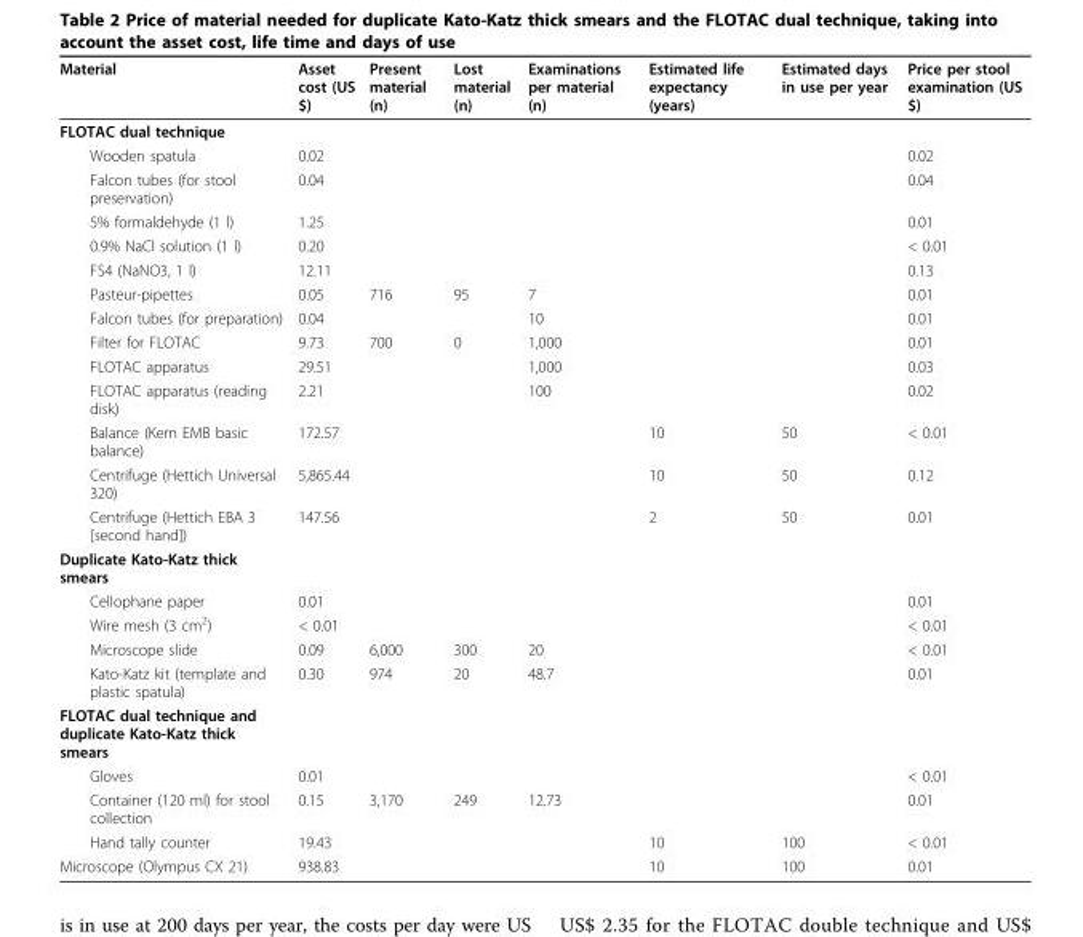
<table><thead><tr><td>Material</td><td>Asset cost (US $)</td><td>Present material (n)</td><td>Lost material (n)</td><td>Examinations per material (n)</td><td>Estimated life expectancy (years)</td><td>Estimated days in use per year</td><td>Price per stool examination (US $)</td></tr></thead><tbody><tr><td colspan="8">FLOTAC dual technique</td></tr><tr><td>Wooden spatula</td><td>0.02</td><td></td><td></td><td></td><td></td><td></td><td>0.02</td></tr><tr><td>Falcon tubes (for stool preservation)</td><td>0.04</td><td></td><td></td><td></td><td></td><td></td><td>0.04</td></tr><tr><td>5% formaldehyde (1 l)</td><td>1.25</td><td></td><td></td><td></td><td></td><td></td><td>0.01</td></tr><tr><td>0.9% NaCl solution (1 l)</td><td>0.20</td><td></td><td></td><td></td><td></td><td></td><td>&lt; 0.01</td></tr><tr><td>FS4 (NaNO3, 1 l)</td><td>12.11</td><td></td><td></td><td></td><td></td><td></td><td>0.13</td></tr><tr><td>Pasteur-pipettes</td><td>0.05</td><td>716</td><td>95</td><td>7</td><td></td><td></td><td>0.01</td></tr><tr><td>Falcon tubes (for preparation)</td><td>0.04</td><td></td><td></td><td>10</td><td></td><td></td><td>0.01</td></tr><tr><td>Filter for FLOTAC</td><td>9.73</td><td>700</td><td>0</td><td>1,000</td><td></td><td></td><td>0.01</td></tr><tr><td>FLOTAC apparatus</td><td>29.51</td><td></td><td></td><td>1,000</td><td></td><td></td><td>0.03</td></tr><tr><td>FLOTAC apparatus (reading disk)</td><td>2.21</td><td></td><td></td><td>100</td><td></td><td></td><td>0.02</td></tr><tr><td>Balance (Kern EMB basic balance)</td><td>172.57</td><td></td><td></td><td></td><td>10</td><td>50</td><td>&lt; 0.01</td></tr><tr><td>Centrifuge (Hettich Universal 320)</td><td>5,865.44</td><td></td><td></td><td></td><td>10</td><td>50</td><td>0.12</td></tr><tr><td>Centrifuge (Hettich EBA 3 [second hand])</td><td>147.56</td><td></td><td></td><td></td><td>2</td><td>50</td><td>0.01</td></tr><tr><td colspan="8">Duplicate Kato-Katz thick smears</td></tr><tr><td>Cellophane paper</td><td>0.01</td><td></td><td></td><td></td><td></td><td></td><td>0.01</td></tr><tr><td>Wire mesh (3 cm<sup>2</sup>)</td><td>&lt; 0.01</td><td></td><td></td><td></td><td></td><td></td><td>&lt; 0.01</td></tr><tr><td>Microscope slide</td><td>0.09</td><td>6,000</td><td>300</td><td>20</td><td></td><td></td><td>&lt; 0.01</td></tr><tr><td>Kato-Katz kit (template and plastic spatula)</td><td>0.30</td><td>974</td><td>20</td><td>48.7</td><td></td><td></td><td>0.01</td></tr><tr><td colspan="8">FLOTAC dual technique and duplicate Kato-Katz thick smears</td></tr><tr><td>Gloves</td><td>0.01</td><td></td><td></td><td></td><td></td><td></td><td>&lt; 0.01</td></tr><tr><td>Container (120 ml) for stool collection</td><td>0.15</td><td>3,170</td><td>249</td><td>12.73</td><td></td><td></td><td>0.01</td></tr><tr><td>Hand tally counter</td><td>19.43</td><td></td><td></td><td></td><td>10</td><td>100</td><td>&lt; 0.01</td></tr><tr><td>Microscope (Olympus CX 21)</td><td>938.83</td><td></td><td></td><td></td><td>10</td><td>100</td><td>0.01</td></tr></tbody></table>